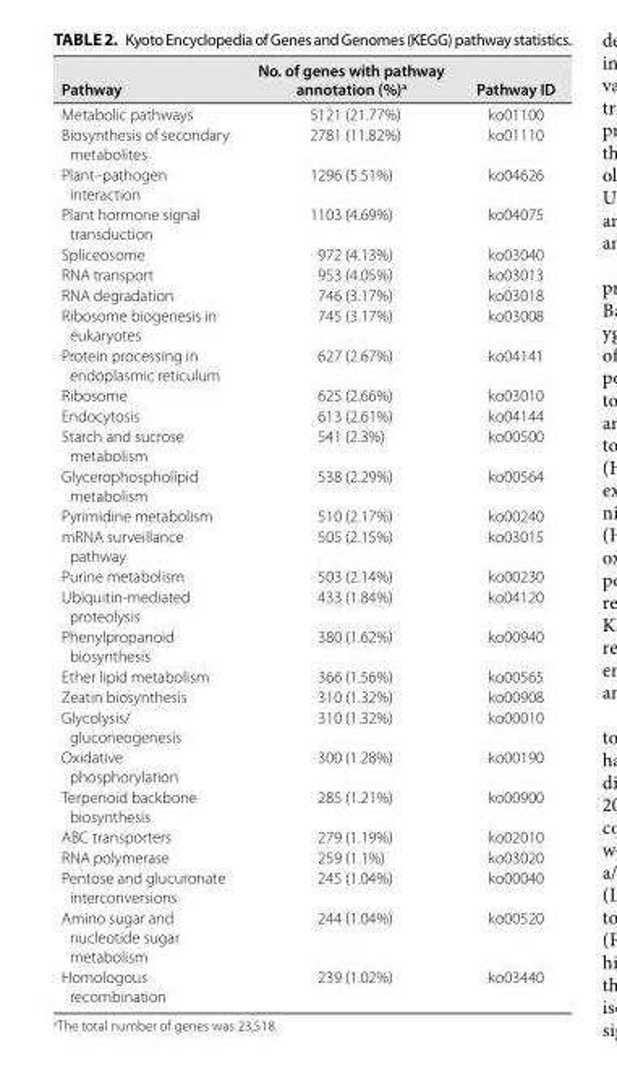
<table><thead><tr><td>Pathway</td><td>No. of genes with pathway annotation (%)<sup>a</sup></td><td>Pathway ID</td></tr></thead><tbody><tr><td>Metabolic pathways</td><td>5121 (21.77%)</td><td>ko01100</td></tr><tr><td>Biosynthesis of secondary metabolites</td><td>2781 (11.82%)</td><td>ko01110</td></tr><tr><td>Plant–pathogen interaction</td><td>1296 (5.51%)</td><td>ko04626</td></tr><tr><td>Plant hormone signal transduction</td><td>1103 (4.69%)</td><td>ko04075</td></tr><tr><td>Spliceosome</td><td>972 (4.13%)</td><td>ko03040</td></tr><tr><td>RNA transport</td><td>953 (4.05%)</td><td>ko03013</td></tr><tr><td>RNA degradation</td><td>746 (3.17%)</td><td>ko03018</td></tr><tr><td>Ribosome biogenesis in eukaryotes</td><td>745 (3.17%)</td><td>ko03008</td></tr><tr><td>Protein processing in endoplasmic reticulum</td><td>627 (2.67%)</td><td>ko04141</td></tr><tr><td>Ribosome</td><td>625 (2.66%)</td><td>ko03010</td></tr><tr><td>Endocytosis</td><td>613 (2.61%)</td><td>ko04144</td></tr><tr><td>Starch and sucrose metabolism</td><td>541 (2.3%)</td><td>ko00500</td></tr><tr><td>Glycerophospholipid metabolism</td><td>538 (2.29%)</td><td>ko00564</td></tr><tr><td>Pyrimidine metabolism</td><td>510 (2.17%)</td><td>ko00240</td></tr><tr><td>mRNA surveillance pathway</td><td>505 (2.15%)</td><td>ko03015</td></tr><tr><td>Purine metabolism</td><td>503 (2.14%)</td><td>ko00230</td></tr><tr><td>Ubiquitin- mediated proteolysis</td><td>433 (1.84%)</td><td>ko04120</td></tr><tr><td>Phenylpropanoid biosynthesis</td><td>380 (1.62%)</td><td>ko00940</td></tr><tr><td>Ether lipid metabolism</td><td>366 (1.56%)</td><td>ko00565</td></tr><tr><td>Zeatin biosynthesis</td><td>310 (1.32%)</td><td>ko00908</td></tr><tr><td>Glycolysis/ gluconeogenesis</td><td>310 (1.32%)</td><td>ko00010</td></tr><tr><td>Oxidative phosphorylation</td><td>300 (1.28%)</td><td>ko00190</td></tr><tr><td>Terpenoid backbone biosynthesis</td><td>285 (1.21%)</td><td>ko00900</td></tr><tr><td>ABC transporters</td><td>279 (1.19%)</td><td>ko02010</td></tr><tr><td>RNA polymerase</td><td>259 (1.1%)</td><td>ko03020</td></tr><tr><td>Pentose and glucuronate interconversions</td><td>245 (1.04%)</td><td>ko00040</td></tr><tr><td>Amino sugar and nucleotide sugar metabolism</td><td>244 (1.04%)</td><td>ko00520</td></tr><tr><td>Homologous recombination</td><td>239 (1.02%)</td><td>ko03440</td></tr></tbody></table>